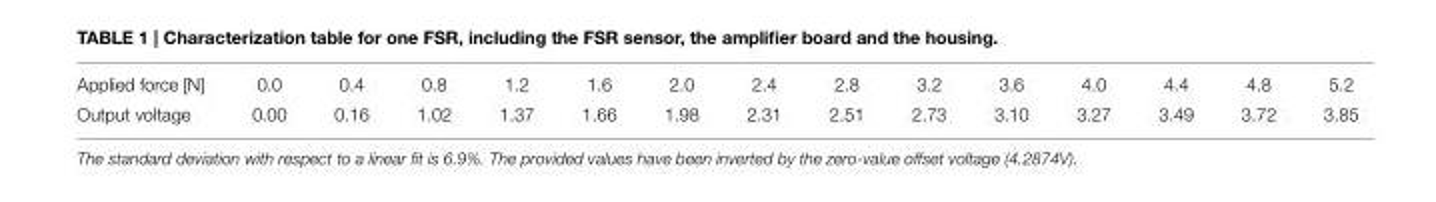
<table><tbody><tr><td>Applied force [N]</td><td>0.0</td><td>0.4</td><td>0.8</td><td>1.2</td><td>1.6</td><td>2.0</td><td>2.4</td><td>2.8</td><td>3.2</td><td>3.6</td><td>4.0</td><td>4.4</td><td>4.8</td><td>5.2</td></tr><tr><td>Output voltage</td><td>0.00</td><td>0.16</td><td>1.02</td><td>1.37</td><td>1.66</td><td>1.98</td><td>2.31</td><td>2.51</td><td>2.73</td><td>3.10</td><td>3.27</td><td>3.49</td><td>3.72</td><td>3.85</td></tr></tbody></table>